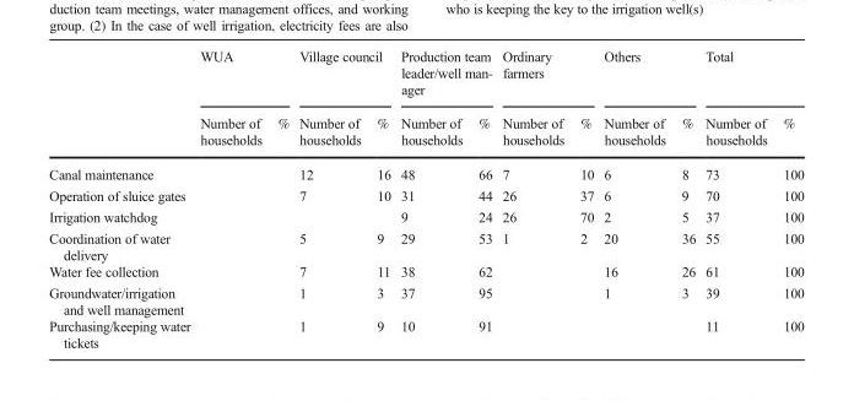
<table><thead><tr><td rowspan="2"></td><td colspan="2">WUA</td><td colspan="2">Village council</td><td colspan="2">Production team leader/well man- ager</td><td colspan="2">Ordinary farmers</td><td colspan="2">Others</td><td colspan="2">Total</td></tr><tr><td>Number of households</td><td>%</td><td>Number of households</td><td>%</td><td>Number of households</td><td>%</td><td>Number of households</td><td>%</td><td>Number of households</td><td>%</td><td>Number of households</td><td>%</td></tr></thead><tbody><tr><td>Canal maintenance</td><td></td><td></td><td>12</td><td>16</td><td>48</td><td>66</td><td>7</td><td>10</td><td>6</td><td>8</td><td>73</td><td>100</td></tr><tr><td>Operation of sluice gates</td><td></td><td></td><td>7</td><td>10</td><td>31</td><td>44</td><td>26</td><td>37</td><td>6</td><td>9</td><td>70</td><td>100</td></tr><tr><td>Irrigation watchdog</td><td></td><td></td><td></td><td></td><td>9</td><td>24</td><td>26</td><td>70</td><td>2</td><td>5</td><td>37</td><td>100</td></tr><tr><td>Coordination of water delivery</td><td></td><td></td><td>5</td><td>9</td><td>29</td><td>53</td><td>1</td><td>2</td><td>20</td><td>36</td><td>55</td><td>100</td></tr><tr><td>Water fee collection</td><td></td><td></td><td>7</td><td>11</td><td>38</td><td>62</td><td></td><td></td><td>16</td><td>26</td><td>61</td><td>100</td></tr><tr><td>Groundwater/irrigation and well management</td><td></td><td></td><td>1</td><td>3</td><td>37</td><td>95</td><td></td><td></td><td>1</td><td>3</td><td>39</td><td>100</td></tr><tr><td>Purchasing/keeping water tickets</td><td></td><td></td><td>1</td><td>9</td><td>10</td><td>91</td><td></td><td></td><td></td><td></td><td>11</td><td>100</td></tr></tbody></table>